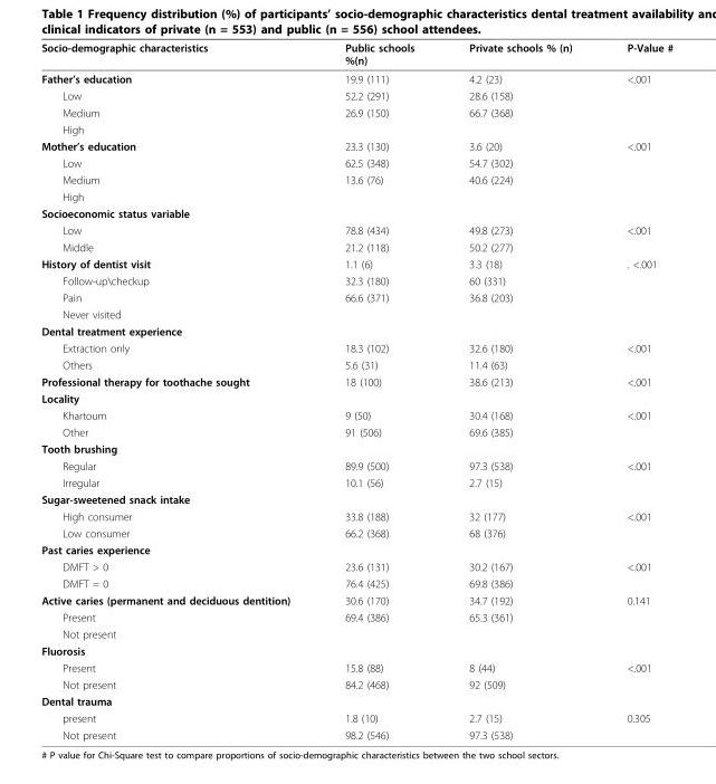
<table><thead><tr><td>Socio-demographic characteristics</td><td>Public schools %(n)</td><td>Private schools % (n)</td><td>P-Value #</td></tr></thead><tbody><tr><td>Father’s education</td><td>19.9 (111)</td><td>4.2 (23)</td><td>&lt;.001</td></tr><tr><td>Low</td><td>52.2 (291)</td><td>28.6 (158)</td><td></td></tr><tr><td>Medium</td><td>26.9 (150)</td><td>66.7 (368)</td><td></td></tr><tr><td colspan="4">High</td></tr><tr><td>Mother’s education</td><td>23.3 (130)</td><td>3.6 (20)</td><td>&lt;.001</td></tr><tr><td>Low</td><td>62.5 (348)</td><td>54.7 (302)</td><td></td></tr><tr><td>Medium</td><td>13.6 (76)</td><td>40.6 (224)</td><td></td></tr><tr><td colspan="4">High</td></tr><tr><td colspan="4">Socioeconomic status variable</td></tr><tr><td>Low</td><td>78.8 (434)</td><td>49.8 (273)</td><td>&lt;.001</td></tr><tr><td>Middle</td><td>21.2 (118)</td><td>50.2 (277)</td><td></td></tr><tr><td>History of dentist visit</td><td>1.1 (6)</td><td>3.3 (18)</td><td>. &lt;.001</td></tr><tr><td>Follow-up\checkup</td><td>32.3 (180)</td><td>60 (331)</td><td></td></tr><tr><td>Pain</td><td>66.6 (371)</td><td>36.8 (203)</td><td></td></tr><tr><td colspan="4">Never visited</td></tr><tr><td colspan="4">Dental treatment experience</td></tr><tr><td>Extraction only</td><td>18.3 (102)</td><td>32.6 (180)</td><td>&lt;.001</td></tr><tr><td>Others</td><td>5.6 (31)</td><td>11.4 (63)</td><td></td></tr><tr><td>Professional therapy for toothache sought</td><td>18 (100)</td><td>38.6 (213)</td><td>&lt;.001</td></tr><tr><td colspan="4">Locality</td></tr><tr><td>Khartoum</td><td>9 (50)</td><td>30.4 (168)</td><td>&lt;.001</td></tr><tr><td>Other</td><td>91 (506)</td><td>69.6 (385)</td><td></td></tr><tr><td colspan="4">Tooth brushing</td></tr><tr><td>Regular</td><td>89.9 (500)</td><td>97.3 (538)</td><td>&lt;.001</td></tr><tr><td>Irregular</td><td>10.1 (56)</td><td>2.7 (15)</td><td></td></tr><tr><td colspan="4">Sugar-sweetened snack intake</td></tr><tr><td>High consumer</td><td>33.8 (188)</td><td>32 (177)</td><td>&lt;.001</td></tr><tr><td>Low consumer</td><td>66.2 (368)</td><td>68 (376)</td><td></td></tr><tr><td colspan="4">Past caries experience</td></tr><tr><td>DMFT &gt; 0</td><td>23.6 (131)</td><td>30.2 (167)</td><td>&lt;.001</td></tr><tr><td>DMFT = 0</td><td>76.4 (425)</td><td>69.8 (386)</td><td></td></tr><tr><td>Active caries (permanent and deciduous dentition)</td><td>30.6 (170)</td><td>34.7 (192)</td><td>0.141</td></tr><tr><td>Present</td><td>69.4 (386)</td><td>65.3 (361)</td><td></td></tr><tr><td colspan="4">Not present</td></tr><tr><td colspan="4">Fluorosis</td></tr><tr><td>Present</td><td>15.8 (88)</td><td>8 (44)</td><td>&lt;.001</td></tr><tr><td>Not present</td><td>84.2 (468)</td><td>92 (509)</td><td></td></tr><tr><td colspan="4">Dental trauma</td></tr><tr><td>present</td><td>1.8 (10)</td><td>2.7 (15)</td><td>0.305</td></tr><tr><td>Not present</td><td>98.2 (546)</td><td>97.3 (538)</td><td></td></tr></tbody></table>